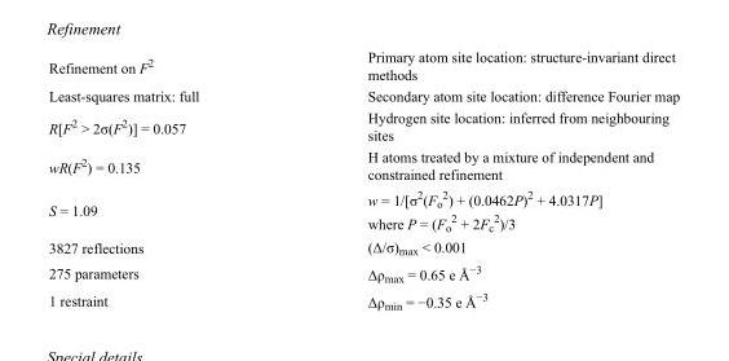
<table><tbody><tr><td>Refinement on F<sup>2</sup></td><td>Primary atom site location: structure-invariant direct methods</td></tr><tr><td>Least-squares matrix: full</td><td>Secondary atom site location: difference Fourier map</td></tr><tr><td>R[F<sup>2</sup> &gt; 2σ(F<sup>2</sup>)] = 0.057</td><td>Hydrogen site location: inferred from neighbouring sites</td></tr><tr><td>wR(F<sup>2</sup>) = 0.135</td><td>H atoms treated by a mixture of independent and constrained refinement</td></tr><tr><td>S = 1.09</td><td>w = 1/[σ<sup>2</sup>(F<sub>o</sub> <sup>2</sup>) + (0.0462P)<sup>2</sup> + 4.0317P] where P = (F<sub>o</sub> <sup>2</sup> + 2F<sub>c</sub> <sup>2</sup>)/3</td></tr><tr><td>3827 reflections</td><td>(Δ/σ)<sub>max</sub> &lt; 0.001</td></tr><tr><td>275 parameters</td><td>Δρ<sub>max</sub> = 0.65 e Å<sup>−3</sup></td></tr><tr><td>1 restraint</td><td>Δρ<sub>min</sub> = −0.35 e Å<sup>−3</sup></td></tr></tbody></table>